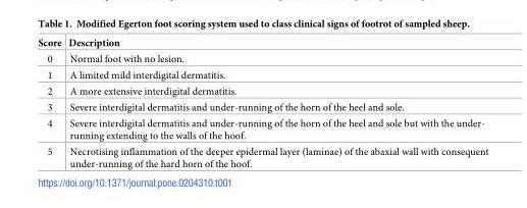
<table><thead><tr><td>Score</td><td>Description</td></tr></thead><tbody><tr><td>0</td><td>Normal foot with no lesion.</td></tr><tr><td>1</td><td>A limited mild interdigital dermatitis.</td></tr><tr><td>2</td><td>A more extensive interdigital dermatitis.</td></tr><tr><td>3</td><td>Severe interdigital dermatitis and under-running of the horn of the heel and sole.</td></tr><tr><td>4</td><td>Severe interdigital dermatitis and under-running of the horn of the heel and sole but with the under- running extending to the walls of the hoof.</td></tr><tr><td>5</td><td>Necrotising inflammation of the deeper epidermal layer (laminae) of the abaxial wall with consequent under-running of the hard horn of the hoof.</td></tr></tbody></table>